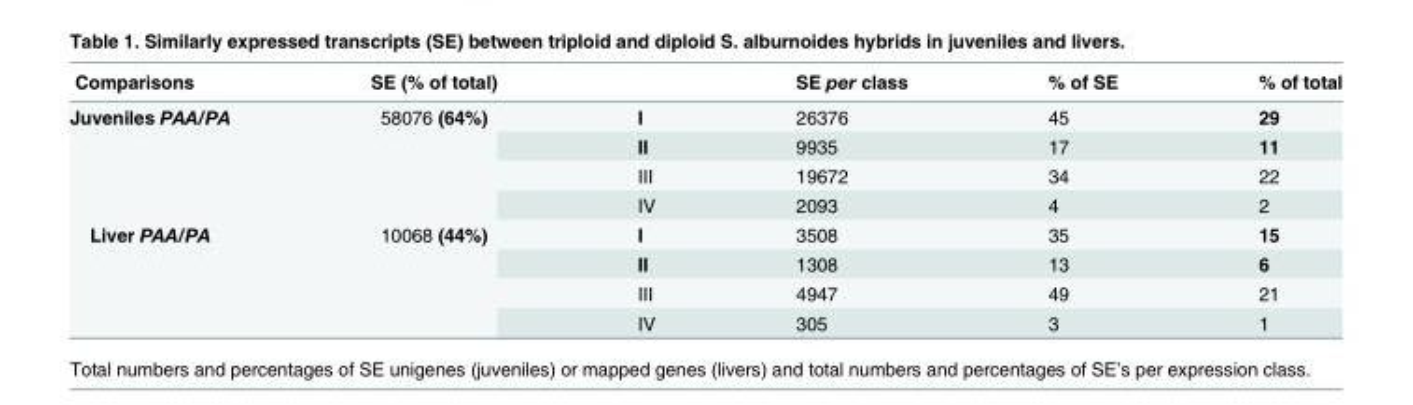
<table><thead><tr><td>Comparisons</td><td>SE (% of total)</td><td></td><td>SE per class</td><td>% of SE</td><td>% of total</td></tr></thead><tbody><tr><td rowspan="4">Juveniles PAA/PA</td><td rowspan="4">58076 (64%)</td><td>I</td><td>26376</td><td>45</td><td>29</td></tr><tr><td>II</td><td>9935</td><td>17</td><td>11</td></tr><tr><td>III</td><td>19672</td><td>34</td><td>22</td></tr><tr><td>IV</td><td>2093</td><td>4</td><td>2</td></tr><tr><td rowspan="4">Liver PAA/PA</td><td rowspan="4">10068 (44%)</td><td>I</td><td>3508</td><td>35</td><td>15</td></tr><tr><td>II</td><td>1308</td><td>13</td><td>6</td></tr><tr><td>III</td><td>4947</td><td>49</td><td>21</td></tr><tr><td>IV</td><td>305</td><td>3</td><td>1</td></tr></tbody></table>